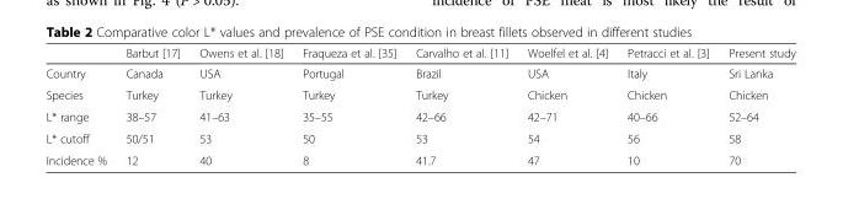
<table><thead><tr><td></td><td>Barbut [17]</td><td>Owens et al. [18]</td><td>Fraqueza et al. [35]</td><td>Carvalho et al. [11]</td><td>Woelfel et al. [4]</td><td>Petracci et al. [3]</td><td>Present study</td></tr></thead><tbody><tr><td>Country</td><td>Canada</td><td>USA</td><td>Portugal</td><td>Brazil</td><td>USA</td><td>Italy</td><td>Sri Lanka</td></tr><tr><td>Species</td><td>Turkey</td><td>Turkey</td><td>Turkey</td><td>Turkey</td><td>Chicken</td><td>Chicken</td><td>Chicken</td></tr><tr><td>L* range</td><td>38–57</td><td>41–63</td><td>35–55</td><td>42–66</td><td>42–71</td><td>40–66</td><td>52–64</td></tr><tr><td>L* cutoff</td><td>50/51</td><td>53</td><td>50</td><td>53</td><td>54</td><td>56</td><td>58</td></tr><tr><td>Incidence %</td><td>12</td><td>40</td><td>8</td><td>41.7</td><td>47</td><td>10</td><td>70</td></tr></tbody></table>